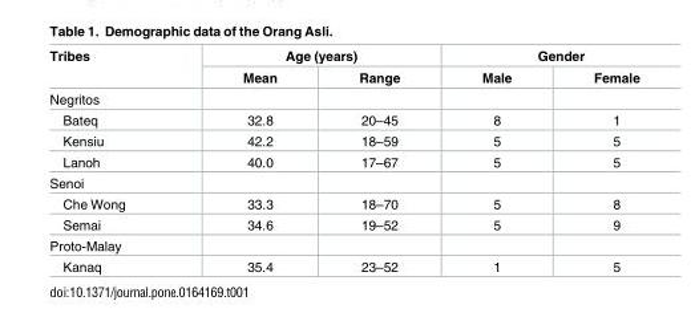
<table><thead><tr><td rowspan="2">Tribes</td><td colspan="2">Age (years)</td><td colspan="2">Gender</td></tr><tr><td>Mean</td><td>Range</td><td>Male</td><td>Female</td></tr></thead><tbody><tr><td colspan="5">Negritos</td></tr><tr><td>Bateq</td><td>32.8</td><td>20–45</td><td>8</td><td>1</td></tr><tr><td>Kensiu</td><td>42.2</td><td>18–59</td><td>5</td><td>5</td></tr><tr><td>Lanoh</td><td>40.0</td><td>17–67</td><td>5</td><td>5</td></tr><tr><td colspan="5">Senoi</td></tr><tr><td>Che Wong</td><td>33.3</td><td>18–70</td><td>5</td><td>8</td></tr><tr><td>Semai</td><td>34.6</td><td>19–52</td><td>5</td><td>9</td></tr><tr><td colspan="5">Proto-Malay</td></tr><tr><td>Kanaq</td><td>35.4</td><td>23–52</td><td>1</td><td>5</td></tr></tbody></table>